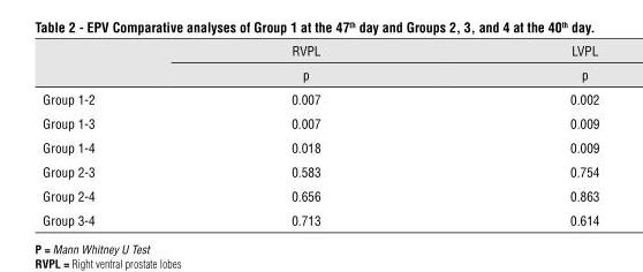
<table><thead><tr><td rowspan="2"></td><td rowspan="2">RVPL p</td><td rowspan="2">LVPL p</td></tr><tr></tr></thead><tbody><tr><td>Group 1-2</td><td>0.007</td><td>0.002</td></tr><tr><td>Group 1-3</td><td>0.007</td><td>0.009</td></tr><tr><td>Group 1-4</td><td>0.018</td><td>0.009</td></tr><tr><td>Group 2-3</td><td>0.583</td><td>0.754</td></tr><tr><td>Group 2-4</td><td>0.656</td><td>0.863</td></tr><tr><td>Group 3-4</td><td>0.713</td><td>0.614</td></tr></tbody></table>